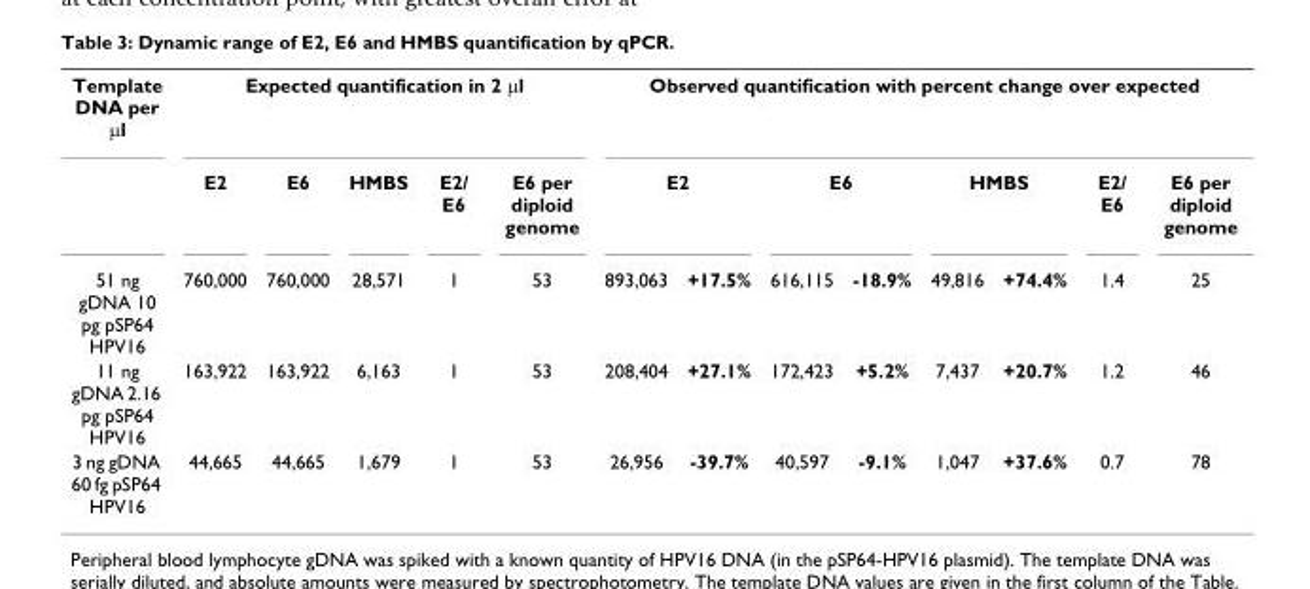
<table><tbody><tr><td rowspan="2">Template DNA per μl</td><td colspan="5">Expected quantification in 2 μl</td><td colspan="8">Observed quantification with percent change over expected</td></tr><tr><td>E2</td><td>E6</td><td>HMBS</td><td>E2/ E6</td><td>E6 per diploid genome</td><td colspan="2">E2</td><td colspan="2">E6</td><td colspan="2">HMBS</td><td>E2/ E6</td><td>E6 per diploid genome</td></tr><tr><td>51 ng gDNA 10 pg pSP64 HPV16</td><td>760,000</td><td>760,000</td><td>28,571</td><td>1</td><td>53</td><td>893,063</td><td>+17.5%</td><td>616,115</td><td>-18.9%</td><td>49,816</td><td>+74.4%</td><td>1.4</td><td>25</td></tr><tr><td>11 ng gDNA 2.16 pg pSP64 HPV16</td><td>163,922</td><td>163,922</td><td>6,163</td><td>1</td><td>53</td><td>208,404</td><td>+27.1%</td><td>172,423</td><td>+5.2%</td><td>7,437</td><td>+20.7%</td><td>1.2</td><td>46</td></tr><tr><td>3 ng gDNA 60 fg pSP64 HPV16</td><td>44,665</td><td>44,665</td><td>1,679</td><td>1</td><td>53</td><td>26,956</td><td>-39.7%</td><td>40,597</td><td>-9.1%</td><td>1,047</td><td>+37.6%</td><td>0.7</td><td>78</td></tr></tbody></table>